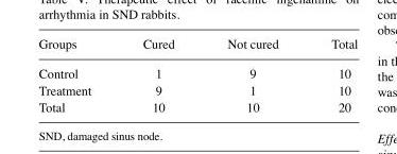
<table><thead><tr><td>Groups</td><td>Cured</td><td>Not cured</td><td>Total</td></tr></thead><tbody><tr><td>Control</td><td>1</td><td>9</td><td>10</td></tr><tr><td>Treatment</td><td>9</td><td>1</td><td>10</td></tr><tr><td>Total</td><td>10</td><td>10</td><td>20</td></tr></tbody></table>